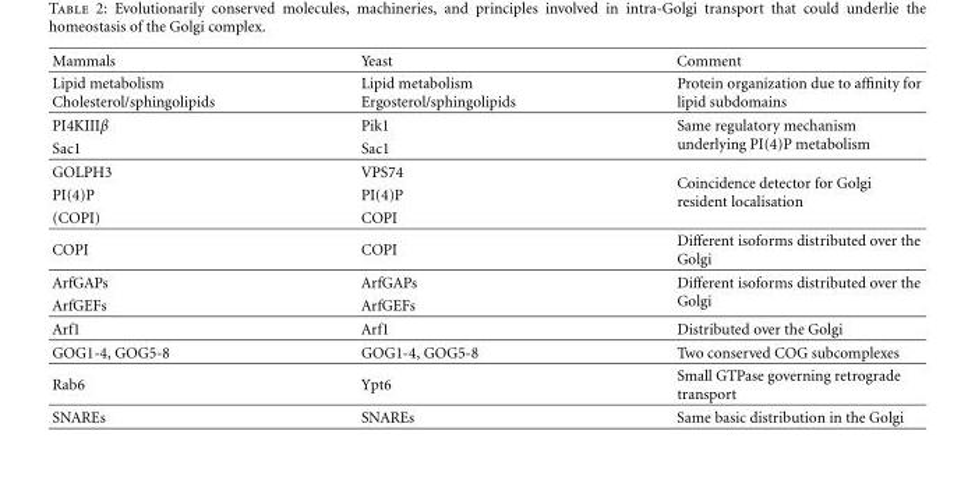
<table><thead><tr><td>Mammals</td><td>Yeast</td><td>Comment</td></tr></thead><tbody><tr><td>Lipid metabolism Cholesterol/sphingolipids</td><td>Lipid metabolism Ergosterol/sphingolipids</td><td>Protein organization due to affinity for lipid subdomains</td></tr><tr><td>PI4KIIIβ</td><td>Pik1</td><td rowspan="2">Same regulatory mechanism underlying PI(4)P metabolism</td></tr><tr><td>Sac1</td><td>Sac1</td></tr><tr><td>GOLPH3</td><td>VPS74</td><td rowspan="3">Coincidence detector for Golgi resident localisation</td></tr><tr><td>PI(4)P</td><td>PI(4)P</td></tr><tr><td>(COPI)</td><td>COPI</td></tr><tr><td>COPI</td><td>COPI</td><td>Different isoforms distributed over the Golgi</td></tr><tr><td>ArfGAPs</td><td>ArfGAPs</td><td rowspan="2">Different isoforms distributed over the Golgi</td></tr><tr><td>ArfGEFs</td><td>ArfGEFs</td></tr><tr><td>Arf1</td><td>Arf1</td><td>Distributed over the Golgi</td></tr><tr><td>GOG1-4, GOG5-8</td><td>GOG1-4, GOG5-8</td><td>Two conserved COG subcomplexes</td></tr><tr><td>Rab6</td><td>Ypt6</td><td>Small GTPase governing retrograde transport</td></tr><tr><td>SNAREs</td><td>SNAREs</td><td>Same basic distribution in the Golgi</td></tr></tbody></table>